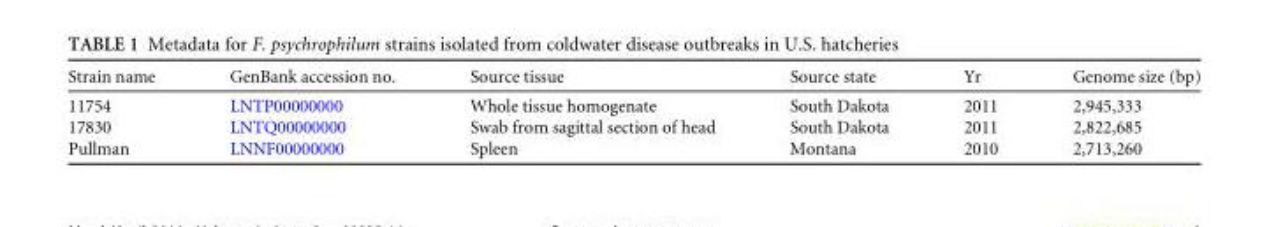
<table><thead><tr><td>Strain name</td><td>GenBank accession no.</td><td>Source tissue</td><td>Source state</td><td>Yr</td><td>Genome size (bp)</td></tr></thead><tbody><tr><td>11754</td><td>LNTP00000000</td><td>Whole tissue homogenate</td><td>South Dakota</td><td>2011</td><td>2,945,333</td></tr><tr><td>17830</td><td>LNTQ00000000</td><td>Swab from sagittal section of head</td><td>South Dakota</td><td>2011</td><td>2,822,685</td></tr><tr><td>Pullman</td><td>LNNF00000000</td><td>Spleen</td><td>Montana</td><td>2010</td><td>2,713,260</td></tr></tbody></table>